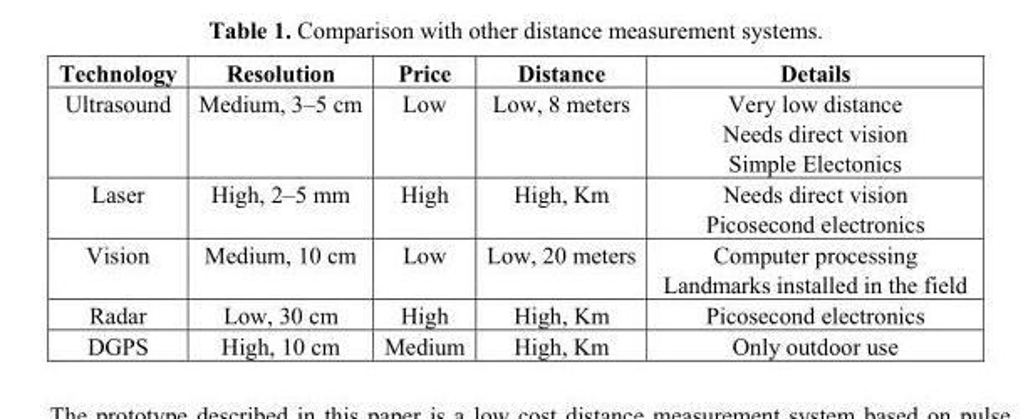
<table><thead><tr><td>Technology</td><td>Resolution</td><td>Price</td><td>Distance</td><td>Details</td></tr></thead><tbody><tr><td>Ultrasound</td><td>Medium, 3–5 cm</td><td>Low</td><td>Low, 8 meters</td><td>Very low distance Needs direct vision Simple Electonics</td></tr><tr><td>Laser</td><td>High, 2–5 mm</td><td>High</td><td>High, Km</td><td>Needs direct vision Picosecond electronics</td></tr><tr><td>Vision</td><td>Medium, 10 cm</td><td>Low</td><td>Low, 20 meters</td><td>Computer processing Landmarks installed in the field</td></tr><tr><td>Radar</td><td>Low, 30 cm</td><td>High</td><td>High, Km</td><td>Picosecond electronics</td></tr><tr><td>DGPS</td><td>High, 10 cm</td><td>Medium</td><td>High, Km</td><td>Only outdoor use</td></tr></tbody></table>